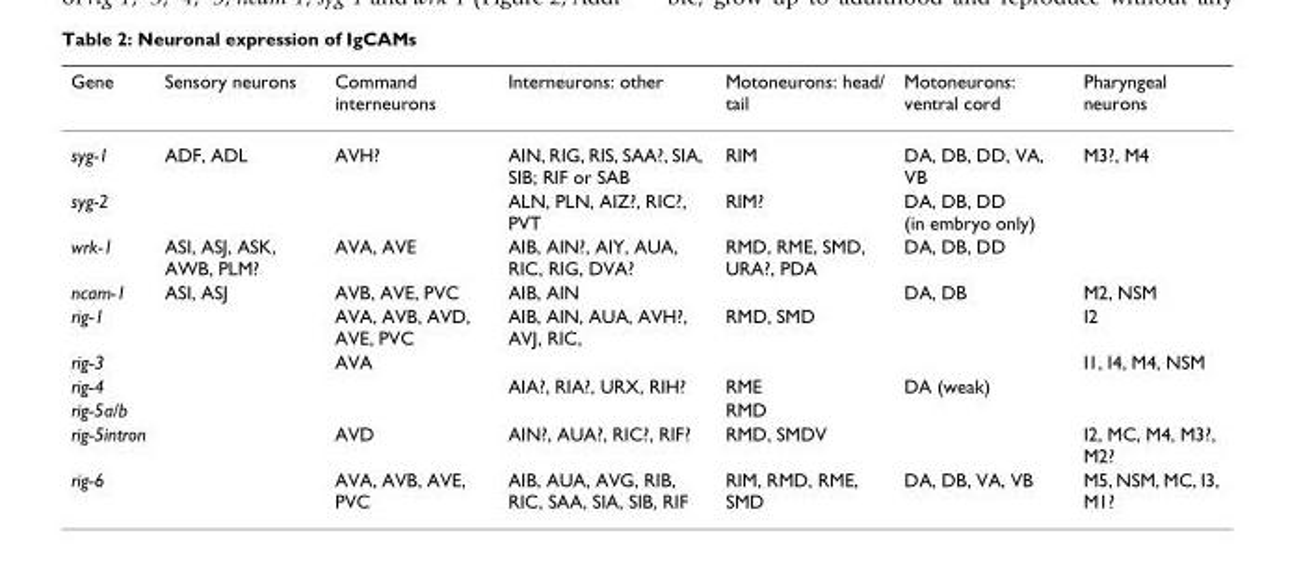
<table><thead><tr><td>Gene</td><td>Sensory neurons</td><td>Command interneurons</td><td>Interneurons: other</td><td>Motoneurons: head/ tail</td><td>Motoneurons: ventral cord</td><td>Pharyngeal neurons</td></tr></thead><tbody><tr><td>syg-1</td><td>ADF, ADL</td><td>AVH?</td><td>AIN, RIG, RIS, SAA?, SIA, SIB; RIF or SAB</td><td>RIM</td><td>DA, DB, DD, VA, VB</td><td>M3?, M4</td></tr><tr><td>syg-2</td><td></td><td></td><td>ALN, PLN, AIZ?, RIC?, PVT</td><td>RIM?</td><td>DA, DB, DD (in embryo only)</td><td></td></tr><tr><td>wrk-1</td><td>ASI, ASJ, ASK, AWB, PLM?</td><td>AVA, AVE</td><td>AIB, AIN?, AIY, AUA, RIC, RIG, DVA?</td><td>RMD, RME, SMD, URA?, PDA</td><td>DA, DB, DD</td><td></td></tr><tr><td>ncam-1</td><td>ASI, ASJ</td><td>AVB, AVE, PVC</td><td>AIB, AIN</td><td></td><td>DA, DB</td><td>M2, NSM</td></tr><tr><td>rig-1</td><td></td><td>AVA, AVB, AVD, AVE, PVC</td><td>AIB, AIN, AUA, AVH?, AVJ, RIC,</td><td>RMD, SMD</td><td></td><td>I2</td></tr><tr><td>rig-3</td><td></td><td>AVA</td><td></td><td></td><td></td><td>I1, I4, M4, NSM</td></tr><tr><td>rig-4</td><td></td><td></td><td>AIA?, RIA?, URX, RIH?</td><td>RME</td><td>DA (weak)</td><td></td></tr><tr><td>rig-5a/b</td><td></td><td></td><td></td><td>RMD</td><td></td><td></td></tr><tr><td>rig-5intron</td><td></td><td>AVD</td><td>AIN?, AUA?, RIC?, RIF?</td><td>RMD, SMDV</td><td></td><td>I2, MC, M4, M3?, M2?</td></tr><tr><td>rig-6</td><td></td><td>AVA, AVB, AVE, PVC</td><td>AIB, AUA, AVG, RIB, RIC, SAA, SIA, SIB, RIF</td><td>RIM, RMD, RME, SMD</td><td>DA, DB, VA, VB</td><td>M5, NSM, MC, I3, M1?</td></tr></tbody></table>